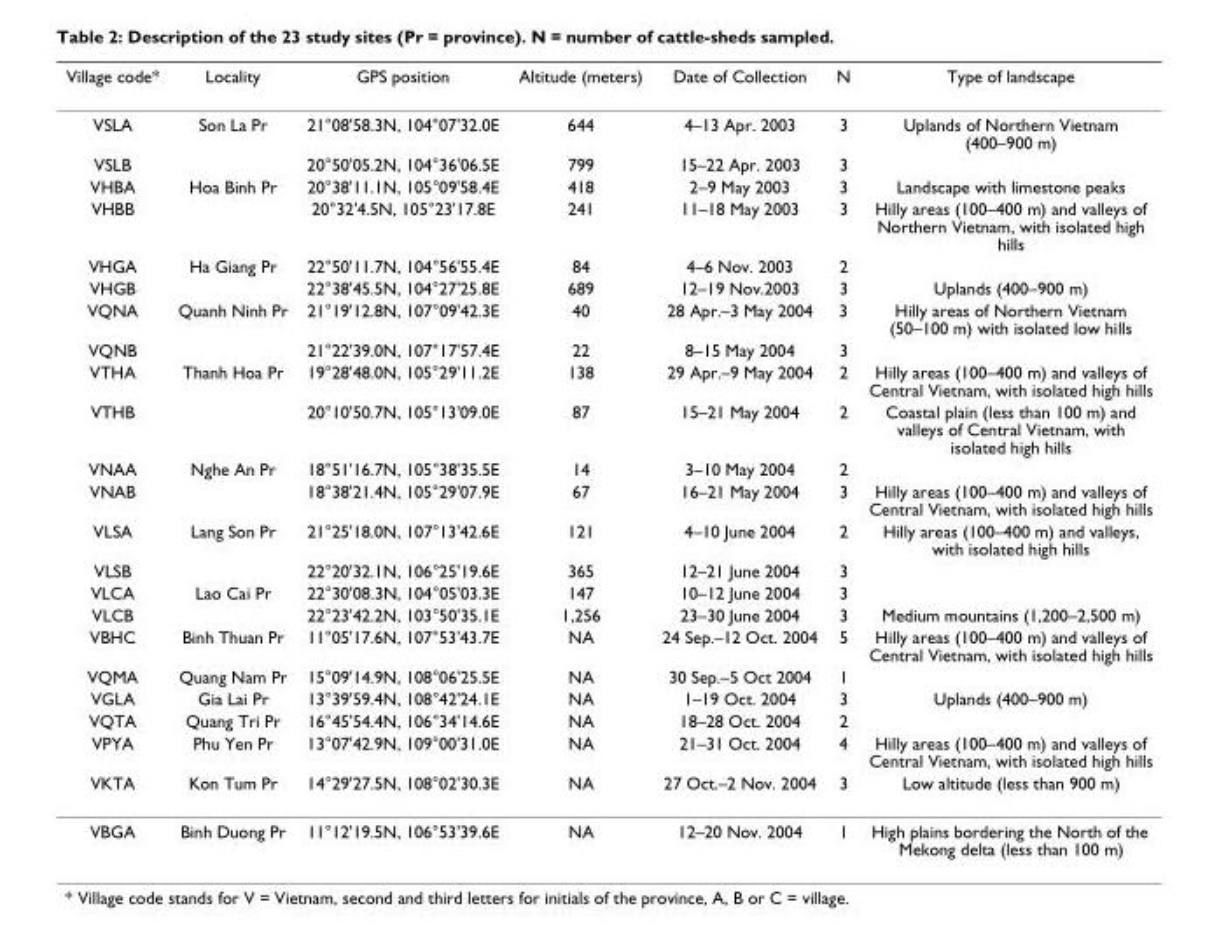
<table><thead><tr><td>Village code*</td><td>Locality</td><td>GPS position</td><td>Altitude (meters)</td><td>Date of Collection</td><td>N</td><td>Type of landscape</td></tr></thead><tbody><tr><td>VSLA</td><td>Son La Pr</td><td>21°08&#x27;58.3N, 104°07&#x27;32.0E</td><td>644</td><td>4–13 Apr. 2003</td><td>3</td><td>Uplands of Northern Vietnam (400–900 m)</td></tr><tr><td>VSLB</td><td></td><td>20°50&#x27;05.2N, 104°36&#x27;06.5E</td><td>799</td><td>15–22 Apr. 2003</td><td>3</td><td></td></tr><tr><td>VHBA</td><td>Hoa Binh Pr</td><td>20°38&#x27;11.1N, 105°09&#x27;58.4E</td><td>418</td><td>2–9 May 2003</td><td>3</td><td>Landscape with limestone peaks</td></tr><tr><td>VHBB</td><td></td><td>20°32&#x27;4.5N, 105°23&#x27;17.8E</td><td>241</td><td>11–18 May 2003</td><td>3</td><td>Hilly areas (100–400 m) and valleys of Northern Vietnam, with isolated high hills</td></tr><tr><td>VHGA</td><td>Ha Giang Pr</td><td>22°50&#x27;11.7N, 104°56&#x27;55.4E</td><td>84</td><td>4–6 Nov. 2003</td><td>2</td><td></td></tr><tr><td>VHGB</td><td></td><td>22°38&#x27;45.5N, 104°27&#x27;25.8E</td><td>689</td><td>12–19 Nov.2003</td><td>3</td><td>Uplands (400–900 m)</td></tr><tr><td>VQNA</td><td>Quanh Ninh Pr</td><td>21°19&#x27;12.8N, 107°09&#x27;42.3E</td><td>40</td><td>28 Apr.–3 May 2004</td><td>3</td><td>Hilly areas of Northern Vietnam (50–100 m) with isolated low hills</td></tr><tr><td>VQNB</td><td></td><td>21°22&#x27;39.0N, 107°17&#x27;57.4E</td><td>22</td><td>8–15 May 2004</td><td>3</td><td></td></tr><tr><td>VTHA</td><td>Thanh Hoa Pr</td><td>19°28&#x27;48.0N, 105°29&#x27;11.2E</td><td>138</td><td>29 Apr.–9 May 2004</td><td>2</td><td>Hilly areas (100–400 m) and valleys of Central Vietnam, with isolated high hills</td></tr><tr><td>VTHB</td><td></td><td>20°10&#x27;50.7N, 105°13&#x27;09.0E</td><td>87</td><td>15–21 May 2004</td><td>2</td><td>Coastal plain (less than 100 m) and valleys of Central Vietnam, with isolated high hills</td></tr><tr><td>VNAA</td><td>Nghe An Pr</td><td>18°51&#x27;16.7N, 105°38&#x27;35.5E</td><td>14</td><td>3–10 May 2004</td><td>2</td><td></td></tr><tr><td>VNAB</td><td></td><td>18°38&#x27;21.4N, 105°29&#x27;07.9E</td><td>67</td><td>16–21 May 2004</td><td>3</td><td>Hilly areas (100–400 m) and valleys of Central Vietnam, with isolated high hills</td></tr><tr><td>VLSA</td><td>Lang Son Pr</td><td>21°25&#x27;18.0N, 107°13&#x27;42.6E</td><td>121</td><td>4–10 June 2004</td><td>2</td><td>Hilly areas (100–400 m) and valleys, with isolated high hills</td></tr><tr><td>VLSB</td><td></td><td>22°20&#x27;32.1N, 106°25&#x27;19.6E</td><td>365</td><td>12–21 June 2004</td><td>3</td><td></td></tr><tr><td>VLCA</td><td>Lao Cai Pr</td><td>22°30&#x27;08.3N, 104°05&#x27;03.3E</td><td>147</td><td>10–12 June 2004</td><td>3</td><td></td></tr><tr><td>VLCB</td><td></td><td>22°23&#x27;42.2N, 103°50&#x27;35.1E</td><td>1,256</td><td>23–30 June 2004</td><td>3</td><td>Medium mountains (1,200–2,500 m)</td></tr><tr><td>VBHC</td><td>Binh Thuan Pr</td><td>11°05&#x27;17.6N, 107°53&#x27;43.7E</td><td>NA</td><td>24 Sep.–12 Oct. 2004</td><td>5</td><td>Hilly areas (100–400 m) and valleys of Central Vietnam, with isolated high hills</td></tr><tr><td>VQMA</td><td>Quang Nam Pr</td><td>15°09&#x27;14.9N, 108°06&#x27;25.5E</td><td>NA</td><td>30 Sep.–5 Oct 2004</td><td>1</td><td></td></tr><tr><td>VGLA</td><td>Gia Lai Pr</td><td>13°39&#x27;59.4N, 108°42&#x27;24.1E</td><td>NA</td><td>1–19 Oct. 2004</td><td>3</td><td>Uplands (400–900 m)</td></tr><tr><td>VQTA</td><td>Quang Tri Pr</td><td>16°45&#x27;54.4N, 106°34&#x27;14.6E</td><td>NA</td><td>18–28 Oct. 2004</td><td>2</td><td></td></tr><tr><td>VPYA</td><td>Phu Yen Pr</td><td>13°07&#x27;42.9N, 109°00&#x27;31.0E</td><td>NA</td><td>21–31 Oct. 2004</td><td>4</td><td>Hilly areas (100–400 m) and valleys of Central Vietnam, with isolated high hills</td></tr><tr><td>VKTA</td><td>Kon Tum Pr</td><td>14°29&#x27;27.5N, 108°02&#x27;30.3E</td><td>NA</td><td>27 Oct.–2 Nov. 2004</td><td>3</td><td>Low altitude (less than 900 m)</td></tr><tr><td>VBGA</td><td>Binh Duong Pr</td><td>11°12&#x27;19.5N, 106°53&#x27;39.6E</td><td>NA</td><td>12–20 Nov. 2004</td><td>1</td><td>High plains bordering the North of the Mekong delta (less than 100 m)</td></tr></tbody></table>